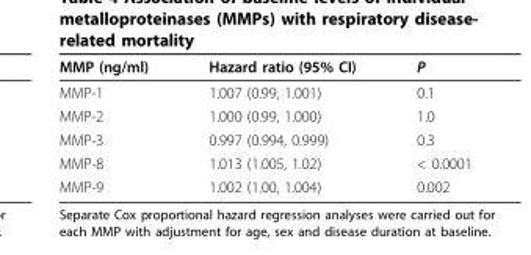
<table><thead><tr><td>MMP (ng/ml)</td><td>Hazard ratio (95% CI)</td><td>P</td></tr></thead><tbody><tr><td>MMP-1</td><td>1.007 (0.99, 1.001)</td><td>0.1</td></tr><tr><td>MMP-2</td><td>1.000 (0.99, 1.000)</td><td>1.0</td></tr><tr><td>MMP-3</td><td>0.997 (0.994, 0.999)</td><td>0.3</td></tr><tr><td>MMP-8</td><td>1.013 (1.005, 1.02)</td><td>&lt; 0.0001</td></tr><tr><td>MMP-9</td><td>1.002 (1.00, 1.004)</td><td>0.002</td></tr></tbody></table>